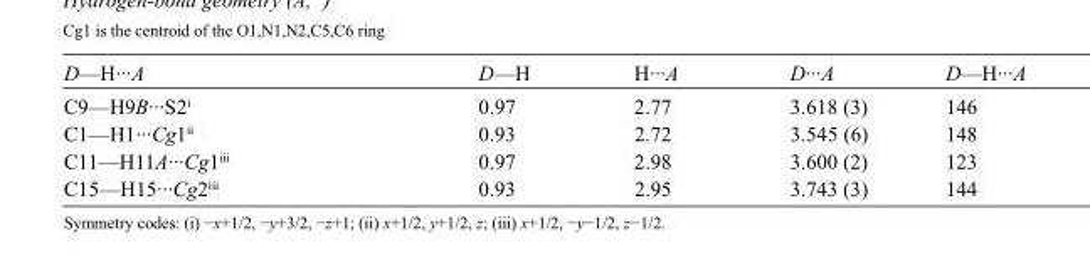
<table><tbody><tr><td>D—H···A</td><td>D—H</td><td>H···A</td><td>D···A</td><td>D—H···A</td></tr><tr><td>C9—H9B···S2<sup>i</sup></td><td>0.97</td><td>2.77</td><td>3.618 (3)</td><td>146</td></tr><tr><td>C1—H1···Cg1<sup>ii</sup></td><td>0.93</td><td>2.72</td><td>3.545 (6)</td><td>148</td></tr><tr><td>C11—H11A···Cg1<sup>iii</sup></td><td>0.97</td><td>2.98</td><td>3.600 (2)</td><td>123</td></tr><tr><td>C15—H15···Cg2<sup>iii</sup></td><td>0.93</td><td>2.95</td><td>3.743 (3)</td><td>144</td></tr></tbody></table>